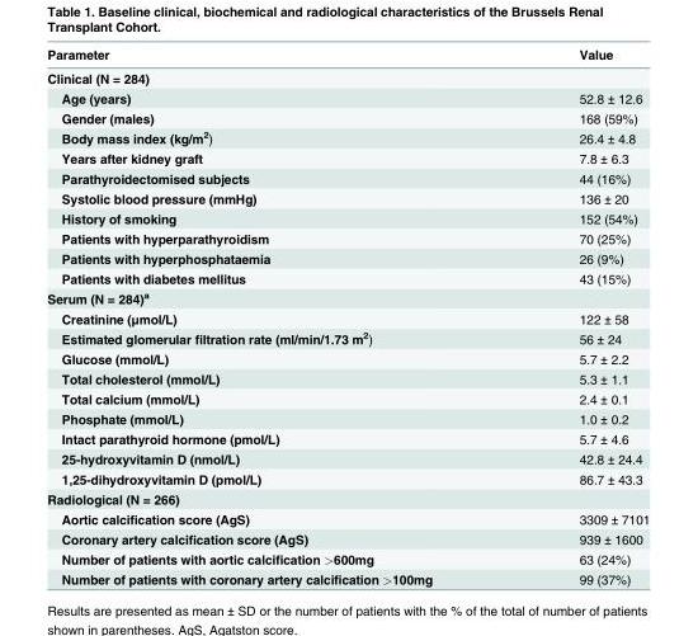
<table><thead><tr><td>Parameter</td><td>Value</td></tr></thead><tbody><tr><td colspan="2">Clinical (N = 284)</td></tr><tr><td>Age (years)</td><td>52.8 ± 12.6</td></tr><tr><td>Gender (males)</td><td>168 (59%)</td></tr><tr><td>Body mass index (kg/m<sup>2</sup>)</td><td>26.4 ± 4.8</td></tr><tr><td>Years after kidney graft</td><td>7.8 ± 6.3</td></tr><tr><td>Parathyroidectomised subjects</td><td>44 (16%)</td></tr><tr><td>Systolic blood pressure (mmHg)</td><td>136 ± 20</td></tr><tr><td>History of smoking</td><td>152 (54%)</td></tr><tr><td>Patients with hyperparathyroidism</td><td>70 (25%)</td></tr><tr><td>Patients with hyperphosphataemia</td><td>26 (9%)</td></tr><tr><td>Patients with diabetes mellitus</td><td>43 (15%)</td></tr><tr><td colspan="2">Serum (N = 284)<sup>a</sup></td></tr><tr><td>Creatinine (μmol/L)</td><td>122 ± 58</td></tr><tr><td>Estimated glomerular filtration rate (ml/min/1.73 m<sup>2</sup>)</td><td>56 ± 24</td></tr><tr><td>Glucose (mmol/L)</td><td>5.7 ± 2.2</td></tr><tr><td>Total cholesterol (mmol/L)</td><td>5.3 ± 1.1</td></tr><tr><td>Total calcium (mmol/L)</td><td>2.4 ± 0.1</td></tr><tr><td>Phosphate (mmol/L)</td><td>1.0 ± 0.2</td></tr><tr><td>Intact parathyroid hormone (pmol/L)</td><td>5.7 ± 4.6</td></tr><tr><td>25-hydroxyvitamin D (nmol/L)</td><td>42.8 ± 24.4</td></tr><tr><td>1,25-dihydroxyvitamin D (pmol/L)</td><td>86.7 ± 43.3</td></tr><tr><td colspan="2">Radiological (N = 266)</td></tr><tr><td>Aortic calcification score (AgS)</td><td>3309 ± 7101</td></tr><tr><td>Coronary artery calcification score (AgS)</td><td>939 ± 1600</td></tr><tr><td>Number of patients with aortic calcification &gt;600mg</td><td>63 (24%)</td></tr><tr><td>Number of patients with coronary artery calcification &gt;100mg</td><td>99 (37%)</td></tr></tbody></table>